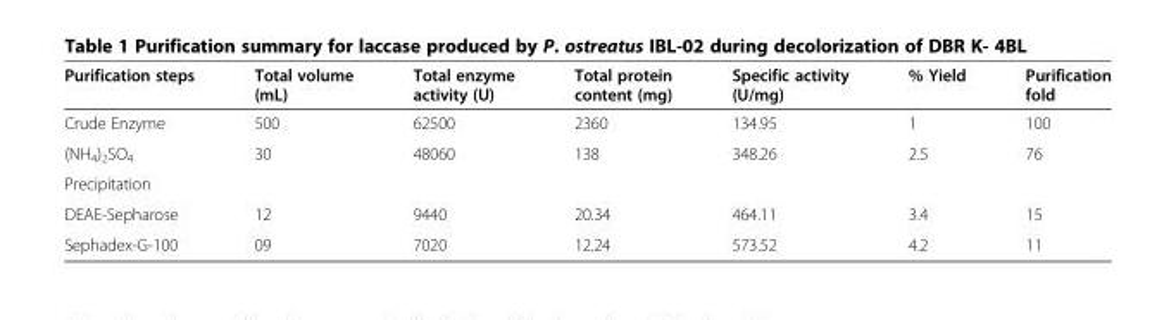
<table><thead><tr><td>Purification steps</td><td>Total volume (mL)</td><td>Total enzyme activity (U)</td><td>Total protein content (mg)</td><td>Specific activity (U/mg)</td><td>% Yield</td><td>Purification fold</td></tr></thead><tbody><tr><td>Crude Enzyme</td><td>500</td><td>62500</td><td>2360</td><td>134.95</td><td>1</td><td>100</td></tr><tr><td>(NH<sub>4</sub>)<sub>2</sub>SO<sub>4</sub></td><td rowspan="2">30</td><td rowspan="2">48060</td><td rowspan="2">138</td><td rowspan="2">348.26</td><td rowspan="2">2.5</td><td rowspan="2">76</td></tr><tr><td>Precipitation</td></tr><tr><td>DEAE-Sepharose</td><td>12</td><td>9440</td><td>20.34</td><td>464.11</td><td>3.4</td><td>15</td></tr><tr><td>Sephadex-G-100</td><td>09</td><td>7020</td><td>12.24</td><td>573.52</td><td>4.2</td><td>11</td></tr></tbody></table>